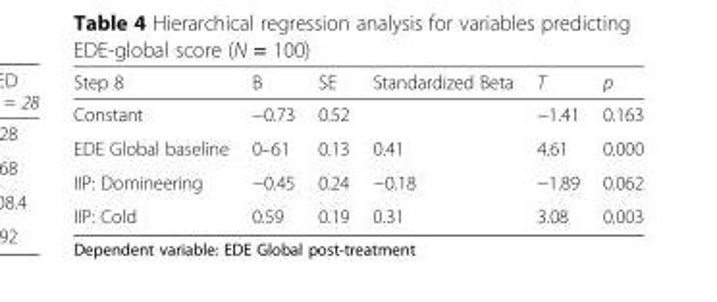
<table><thead><tr><td>Step 8</td><td>B</td><td>SE</td><td>Standardized Beta</td><td>T</td><td>p</td></tr></thead><tbody><tr><td>Constant</td><td>−0.73</td><td>0.52</td><td></td><td>−1.41</td><td>0.163</td></tr><tr><td>EDE Global baseline</td><td>0–61</td><td>0.13</td><td>0.41</td><td>4.61</td><td>0.000</td></tr><tr><td>IIP: Domineering</td><td>−0.45</td><td>0.24</td><td>−0.18</td><td>−1.89</td><td>0.062</td></tr><tr><td>IIP: Cold</td><td>0.59</td><td>0.19</td><td>0.31</td><td>3.08</td><td>0.003</td></tr></tbody></table>